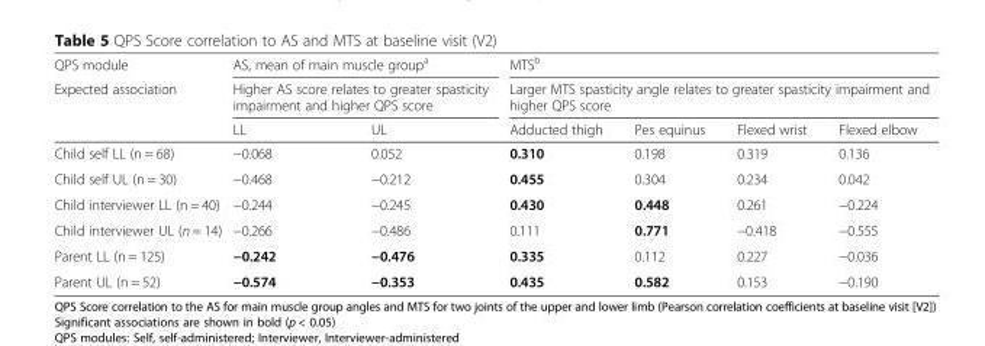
<table><thead><tr><td rowspan="3">QPS module Expected association</td><td rowspan="2" colspan="2">AS, mean of main muscle group<sup>a</sup> Higher AS score relates to greater spasticity impairment and higher QPS score</td><td rowspan="2" colspan="4">MTS<sup>b</sup> Larger MTS spasticity angle relates to greater spasticity impairment and higher QPS score</td></tr><tr></tr><tr><td>LL</td><td>UL</td><td>Adducted thigh</td><td>Pes equinus</td><td>Flexed wrist</td><td>Flexed elbow</td></tr></thead><tbody><tr><td>Child self LL (n = 68)</td><td>−0.068</td><td>0.052</td><td>0.310</td><td>0.198</td><td>0.319</td><td>0.136</td></tr><tr><td>Child self UL (n = 30)</td><td>−0.468</td><td>−0.212</td><td>0.455</td><td>0.304</td><td>0.234</td><td>0.042</td></tr><tr><td>Child interviewer LL (n = 40)</td><td>−0.244</td><td>−0.245</td><td>0.430</td><td>0.448</td><td>0.261</td><td>−0.224</td></tr><tr><td>Child interviewer UL (n = 14)</td><td>−0.266</td><td>−0.486</td><td>0.111</td><td>0.771</td><td>−0.418</td><td>−0.555</td></tr><tr><td>Parent LL (n = 125)</td><td>−0.242</td><td>−0.476</td><td>0.335</td><td>0.112</td><td>0.227</td><td>−0.036</td></tr><tr><td>Parent UL (n = 52)</td><td>−0.574</td><td>−0.353</td><td>0.435</td><td>0.582</td><td>0.153</td><td>−0.190</td></tr></tbody></table>